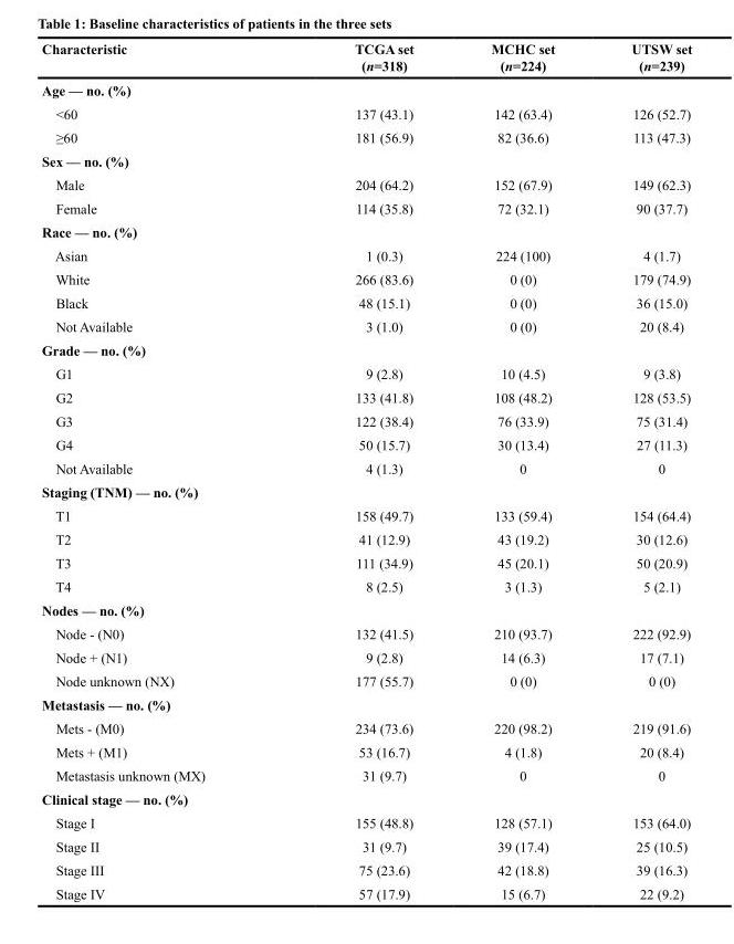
<table><thead><tr><td>Characteristic</td><td>TCGA set (n=318)</td><td>MCHC set (n=224)</td><td>UTSW set (n=239)</td></tr></thead><tbody><tr><td colspan="4">Age — no. (%)</td></tr><tr><td>&lt;60</td><td>137 (43.1)</td><td>142 (63.4)</td><td>126 (52.7)</td></tr><tr><td>≥60</td><td>181 (56.9)</td><td>82 (36.6)</td><td>113 (47.3)</td></tr><tr><td colspan="4">Sex — no. (%)</td></tr><tr><td>Male</td><td>204 (64.2)</td><td>152 (67.9)</td><td>149 (62.3)</td></tr><tr><td>Female</td><td>114 (35.8)</td><td>72 (32.1)</td><td>90 (37.7)</td></tr><tr><td colspan="4">Race — no. (%)</td></tr><tr><td>Asian</td><td>1 (0.3)</td><td>224 (100)</td><td>4 (1.7)</td></tr><tr><td>White</td><td>266 (83.6)</td><td>0 (0)</td><td>179 (74.9)</td></tr><tr><td>Black</td><td>48 (15.1)</td><td>0 (0)</td><td>36 (15.0)</td></tr><tr><td>Not Available</td><td>3 (1.0)</td><td>0 (0)</td><td>20 (8.4)</td></tr><tr><td colspan="4">Grade — no. (%)</td></tr><tr><td>G1</td><td>9 (2.8)</td><td>10 (4.5)</td><td>9 (3.8)</td></tr><tr><td>G2</td><td>133 (41.8)</td><td>108 (48.2)</td><td>128 (53.5)</td></tr><tr><td>G3</td><td>122 (38.4)</td><td>76 (33.9)</td><td>75 (31.4)</td></tr><tr><td>G4</td><td>50 (15.7)</td><td>30 (13.4)</td><td>27 (11.3)</td></tr><tr><td>Not Available</td><td>4 (1.3)</td><td>0</td><td>0</td></tr><tr><td colspan="4">Staging (TNM) — no. (%)</td></tr><tr><td>T1</td><td>158 (49.7)</td><td>133 (59.4)</td><td>154 (64.4)</td></tr><tr><td>T2</td><td>41 (12.9)</td><td>43 (19.2)</td><td>30 (12.6)</td></tr><tr><td>T3</td><td>111 (34.9)</td><td>45 (20.1)</td><td>50 (20.9)</td></tr><tr><td>T4</td><td>8 (2.5)</td><td>3 (1.3)</td><td>5 (2.1)</td></tr><tr><td colspan="4">Nodes — no. (%)</td></tr><tr><td>Node - (N0)</td><td>132 (41.5)</td><td>210 (93.7)</td><td>222 (92.9)</td></tr><tr><td>Node + (N1)</td><td>9 (2.8)</td><td>14 (6.3)</td><td>17 (7.1)</td></tr><tr><td>Node unknown (NX)</td><td>177 (55.7)</td><td>0 (0)</td><td>0 (0)</td></tr><tr><td colspan="4">Metastasis — no. (%)</td></tr><tr><td>Mets - (M0)</td><td>234 (73.6)</td><td>220 (98.2)</td><td>219 (91.6)</td></tr><tr><td>Mets + (M1)</td><td>53 (16.7)</td><td>4 (1.8)</td><td>20 (8.4)</td></tr><tr><td>Metastasis unknown (MX)</td><td>31 (9.7)</td><td>0</td><td>0</td></tr><tr><td colspan="4">Clinical stage — no. (%)</td></tr><tr><td>Stage I</td><td>155 (48.8)</td><td>128 (57.1)</td><td>153 (64.0)</td></tr><tr><td>Stage II</td><td>31 (9.7)</td><td>39 (17.4)</td><td>25 (10.5)</td></tr><tr><td>Stage III</td><td>75 (23.6)</td><td>42 (18.8)</td><td>39 (16.3)</td></tr><tr><td>Stage IV</td><td>57 (17.9)</td><td>15 (6.7)</td><td>22 (9.2)</td></tr></tbody></table>